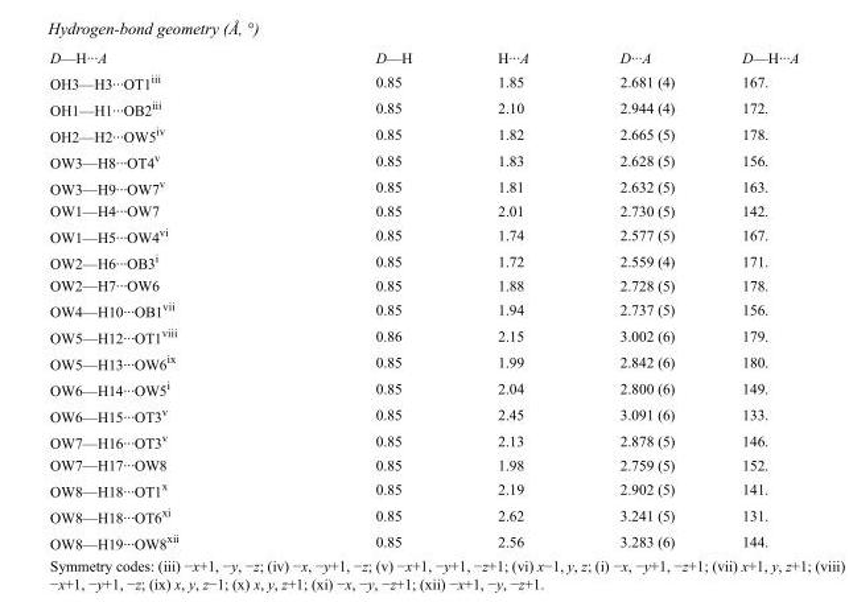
<table><tbody><tr><td>D—H···A</td><td>D—H</td><td>H···A</td><td>D···A</td><td>D—H···A</td></tr><tr><td>OH3—H3···OT1<sup>iii</sup></td><td>0.85</td><td>1.85</td><td>2.681 (4)</td><td>167.</td></tr><tr><td>OH1—H1···OB2<sup>iii</sup></td><td>0.85</td><td>2.10</td><td>2.944 (4)</td><td>172.</td></tr><tr><td>OH2—H2···OW5<sup>iv</sup></td><td>0.85</td><td>1.82</td><td>2.665 (5)</td><td>178.</td></tr><tr><td>OW3—H8···OT4<sup>v</sup></td><td>0.85</td><td>1.83</td><td>2.628 (5)</td><td>156.</td></tr><tr><td>OW3—H9···OW7<sup>v</sup></td><td>0.85</td><td>1.81</td><td>2.632 (5)</td><td>163.</td></tr><tr><td>OW1—H4···OW7</td><td>0.85</td><td>2.01</td><td>2.730 (5)</td><td>142.</td></tr><tr><td>OW1—H5···OW4<sup>vi</sup></td><td>0.85</td><td>1.74</td><td>2.577 (5)</td><td>167.</td></tr><tr><td>OW2—H6···OB3<sup>i</sup></td><td>0.85</td><td>1.72</td><td>2.559 (4)</td><td>171.</td></tr><tr><td>OW2—H7···OW6</td><td>0.85</td><td>1.88</td><td>2.728 (5)</td><td>178.</td></tr><tr><td>OW4—H10···OB1<sup>vii</sup></td><td>0.85</td><td>1.94</td><td>2.737 (5)</td><td>156.</td></tr><tr><td>OW5—H12···OT1<sup>viii</sup></td><td>0.86</td><td>2.15</td><td>3.002 (6)</td><td>179.</td></tr><tr><td>OW5—H13···OW6<sup>ix</sup></td><td>0.85</td><td>1.99</td><td>2.842 (6)</td><td>180.</td></tr><tr><td>OW6—H14···OW5<sup>i</sup></td><td>0.85</td><td>2.04</td><td>2.800 (6)</td><td>149.</td></tr><tr><td>OW6—H15···OT3<sup>v</sup></td><td>0.85</td><td>2.45</td><td>3.091 (6)</td><td>133.</td></tr><tr><td>OW7—H16···OT3<sup>v</sup></td><td>0.85</td><td>2.13</td><td>2.878 (5)</td><td>146.</td></tr><tr><td>OW7—H17···OW8</td><td>0.85</td><td>1.98</td><td>2.759 (5)</td><td>152.</td></tr><tr><td>OW8—H18···OT1<sup>x</sup></td><td>0.85</td><td>2.19</td><td>2.902 (5)</td><td>141.</td></tr><tr><td>OW8—H18···OT6<sup>xi</sup></td><td>0.85</td><td>2.62</td><td>3.241 (5)</td><td>131.</td></tr><tr><td>OW8—H19···OW8<sup>xii</sup></td><td>0.85</td><td>2.56</td><td>3.283 (6)</td><td>144.</td></tr></tbody></table>